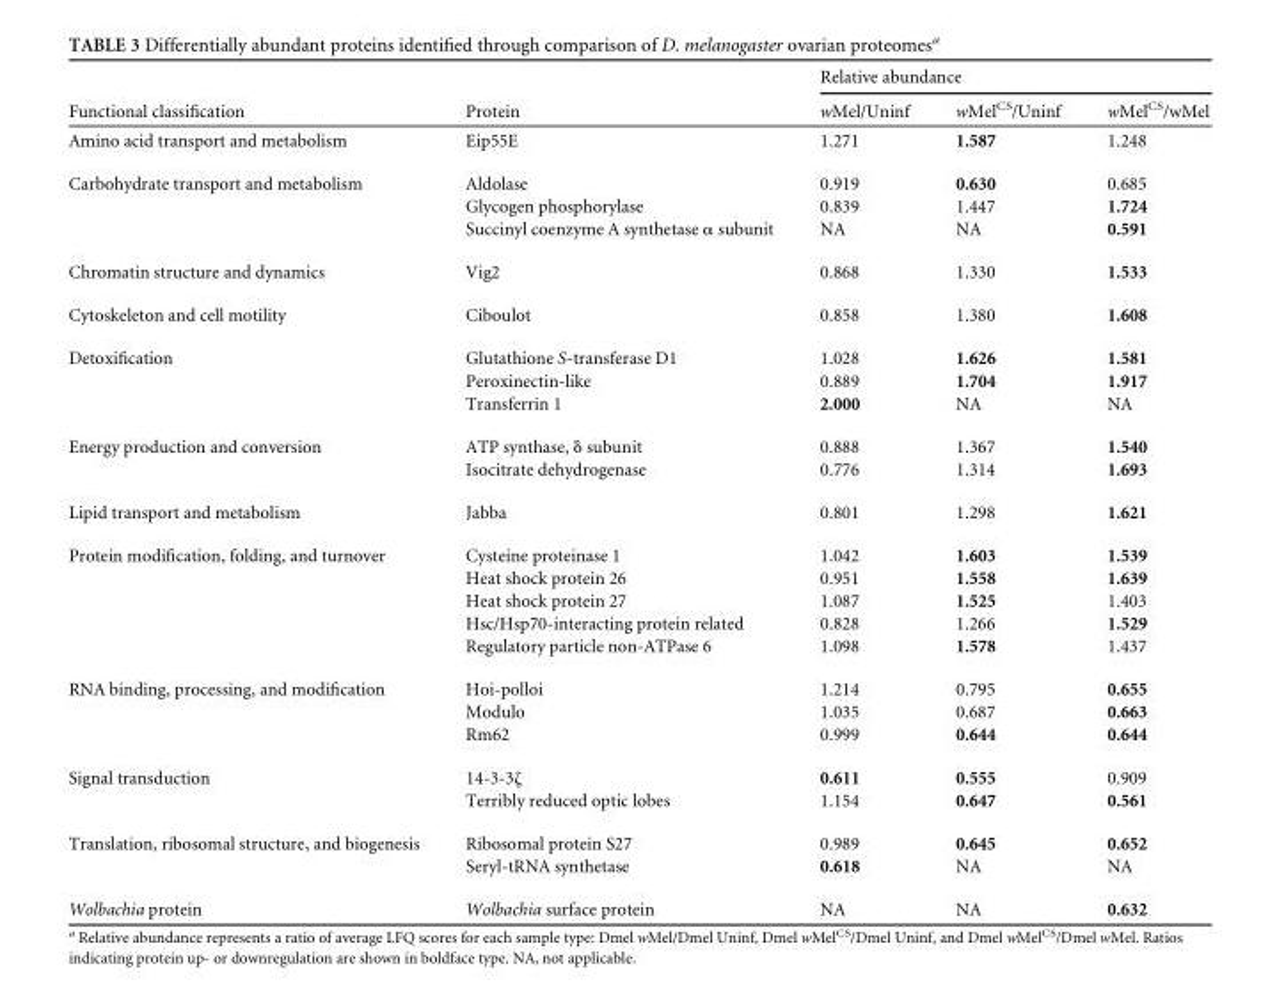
<table><thead><tr><td rowspan="2">Functional classification</td><td rowspan="2">Protein</td><td colspan="3">Relative abundance</td></tr><tr><td>wMel/Uninf</td><td>wMel<sup>CS</sup>/Uninf</td><td>wMel<sup>CS</sup>/wMel</td></tr></thead><tbody><tr><td>Amino acid transport and metabolism</td><td>Eip55E</td><td>1.271</td><td>1.587</td><td>1.248</td></tr><tr><td rowspan="3">Carbohydrate transport and metabolism</td><td>Aldolase</td><td>0.919</td><td>0.630</td><td>0.685</td></tr><tr><td>Glycogen phosphorylase</td><td>0.839</td><td>1.447</td><td>1.724</td></tr><tr><td>Succinyl coenzyme A synthetase α subunit</td><td>NA</td><td>NA</td><td>0.591</td></tr><tr><td>Chromatin structure and dynamics</td><td>Vig2</td><td>0.868</td><td>1.330</td><td>1.533</td></tr><tr><td>Cytoskeleton and cell motility</td><td>Ciboulot</td><td>0.858</td><td>1.380</td><td>1.608</td></tr><tr><td rowspan="3">Detoxification</td><td>Glutathione S-transferase D1</td><td>1.028</td><td>1.626</td><td>1.581</td></tr><tr><td>Peroxinectin-like</td><td>0.889</td><td>1.704</td><td>1.917</td></tr><tr><td>Transferrin 1</td><td>2.000</td><td>NA</td><td>NA</td></tr><tr><td rowspan="2">Energy production and conversion</td><td>ATP synthase, δ subunit</td><td>0.888</td><td>1.367</td><td>1.540</td></tr><tr><td>Isocitrate dehydrogenase</td><td>0.776</td><td>1.314</td><td>1.693</td></tr><tr><td>Lipid transport and metabolism</td><td>Jabba</td><td>0.801</td><td>1.298</td><td>1.621</td></tr><tr><td rowspan="5">Protein modification, folding, and turnover</td><td>Cysteine proteinase 1</td><td>1.042</td><td>1.603</td><td>1.539</td></tr><tr><td>Heat shock protein 26</td><td>0.951</td><td>1.558</td><td>1.639</td></tr><tr><td>Heat shock protein 27</td><td>1.087</td><td>1.525</td><td>1.403</td></tr><tr><td>Hsc/Hsp70-interacting protein related</td><td>0.828</td><td>1.266</td><td>1.529</td></tr><tr><td>Regulatory particle non-ATPase 6</td><td>1.098</td><td>1.578</td><td>1.437</td></tr><tr><td rowspan="3">RNA binding, processing, and modification</td><td>Hoi-polloi</td><td>1.214</td><td>0.795</td><td>0.655</td></tr><tr><td>Modulo</td><td>1.035</td><td>0.687</td><td>0.663</td></tr><tr><td>Rm62</td><td>0.999</td><td>0.644</td><td>0.644</td></tr><tr><td rowspan="2">Signal transduction</td><td>14-3-3ζ</td><td>0.611</td><td>0.555</td><td>0.909</td></tr><tr><td>Terribly reduced optic lobes</td><td>1.154</td><td>0.647</td><td>0.561</td></tr><tr><td rowspan="2">Translation, ribosomal structure, and biogenesis</td><td>Ribosomal protein S27</td><td>0.989</td><td>0.645</td><td>0.652</td></tr><tr><td>Seryl-tRNA synthetase</td><td>0.618</td><td>NA</td><td>NA</td></tr><tr><td>Wolbachia protein</td><td>Wolbachia surface protein</td><td>NA</td><td>NA</td><td>0.632</td></tr></tbody></table>